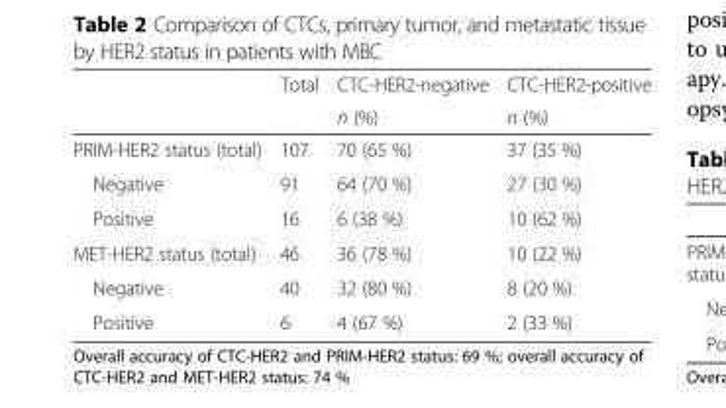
<table><thead><tr><td rowspan="2"></td><td rowspan="2">Total</td><td rowspan="2">CTC-HER2-negative n (%)</td><td rowspan="2">CTC-HER2-positive n (%)</td></tr><tr></tr></thead><tbody><tr><td>PRIM-HER2 status (total)</td><td>107</td><td>70 (65 %)</td><td>37 (35 %)</td></tr><tr><td>Negative</td><td>91</td><td>64 (70 %)</td><td>27 (30 %)</td></tr><tr><td>Positive</td><td>16</td><td>6 (38 %)</td><td>10 (62 %)</td></tr><tr><td>MET-HER2 status (total)</td><td>46</td><td>36 (78 %)</td><td>10 (22 %)</td></tr><tr><td>Negative</td><td>40</td><td>32 (80 %)</td><td>8 (20 %)</td></tr><tr><td>Positive</td><td>6</td><td>4 (67 %)</td><td>2 (33 %)</td></tr></tbody></table>